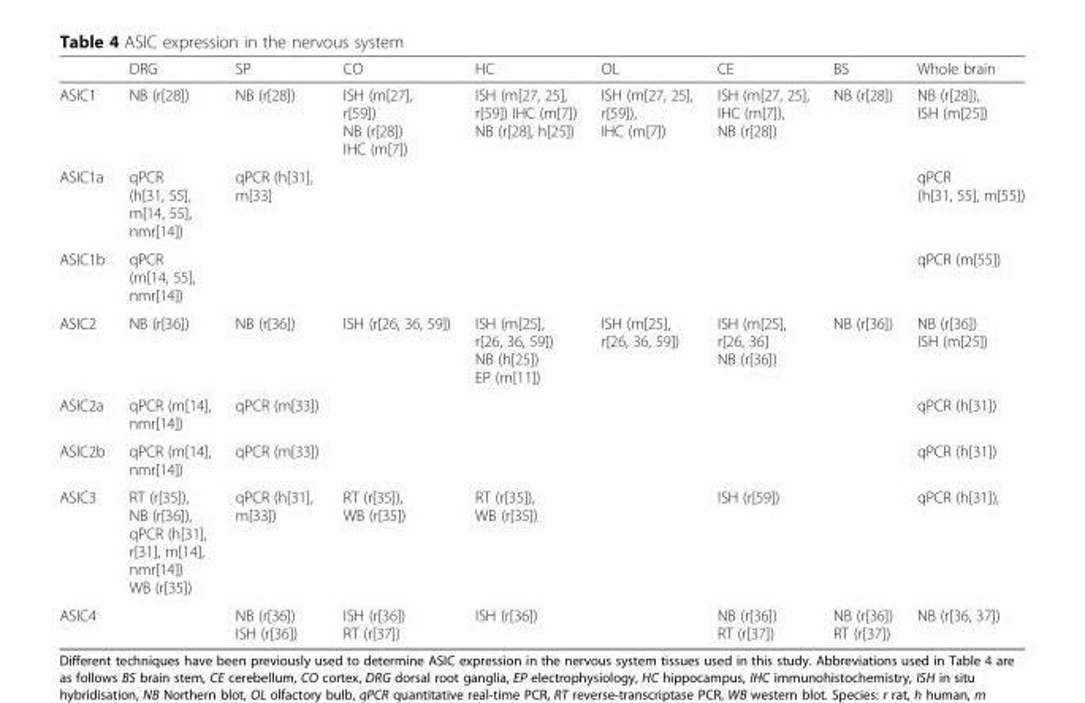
<table><thead><tr><td></td><td>DRG</td><td>SP</td><td>CO</td><td>HC</td><td>OL</td><td>CE</td><td>BS</td><td>Whole brain</td></tr></thead><tbody><tr><td>ASIC1</td><td>NB (r[28])</td><td>NB (r[28])</td><td>ISH (m[27], r[59]) NB (r[28]) IHC (m[7])</td><td>ISH (m[27, 25], r[59]) IHC (m[7]) NB (r[28], h[25])</td><td>ISH (m[27, 25], r[59]), IHC (m[7])</td><td>ISH (m[27, 25], IHC (m[7]), NB (r[28])</td><td>NB (r[28])</td><td>NB (r[28]), ISH (m[25])</td></tr><tr><td>ASIC1a</td><td>qPCR (h[31, 55], m[14, 55], nmr[14])</td><td>qPCR (h[31], m[33]</td><td></td><td></td><td></td><td></td><td></td><td>qPCR (h[31, 55], m[55])</td></tr><tr><td>ASIC1b</td><td>qPCR (m[14, 55], nmr[14])</td><td></td><td></td><td></td><td></td><td></td><td></td><td>qPCR (m[55])</td></tr><tr><td>ASIC2</td><td>NB (r[36])</td><td>NB (r[36])</td><td>ISH (r[26, 36, 59])</td><td>ISH (m[25], r[26, 36, 59]) NB (h[25]) EP (m[11])</td><td>ISH (m[25], r[26, 36, 59])</td><td>ISH (m[25], r[26, 36] NB (r[36])</td><td>NB (r[36])</td><td>NB (r[36]) ISH (m[25])</td></tr><tr><td>ASIC2a</td><td>qPCR (m[14], nmr[14])</td><td>qPCR (m[33])</td><td></td><td></td><td></td><td></td><td></td><td>qPCR (h[31])</td></tr><tr><td>ASIC2b</td><td>qPCR (m[14], nmr[14])</td><td>qPCR (m[33])</td><td></td><td></td><td></td><td></td><td></td><td>qPCR (h[31])</td></tr><tr><td>ASIC3</td><td>RT (r[35]), NB (r[36]), qPCR (h[31], r[31], m[14], nmr[14]) WB (r[35])</td><td>qPCR (h[31], m[33])</td><td>RT (r[35]), WB (r[35])</td><td>RT (r[35]), WB (r[35])</td><td></td><td>ISH (r[59])</td><td></td><td>qPCR (h[31]),</td></tr><tr><td>ASIC4</td><td></td><td>NB (r[36]) ISH (r[36])</td><td>ISH (r[36]) RT (r[37])</td><td>ISH (r[36])</td><td></td><td>NB (r[36]) RT (r[37])</td><td>NB (r[36]) RT (r[37])</td><td>NB (r[36, 37])</td></tr></tbody></table>